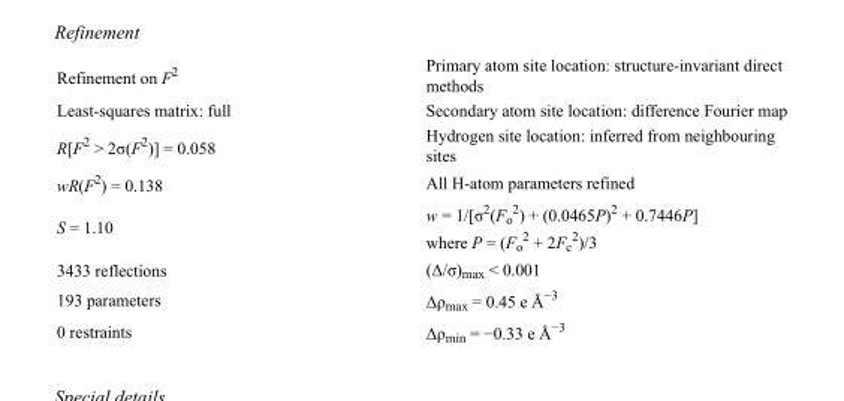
<table><tbody><tr><td>Refinement on F<sup>2</sup></td><td>Primary atom site location: structure-invariant direct methods</td></tr><tr><td>Least-squares matrix: full</td><td>Secondary atom site location: difference Fourier map</td></tr><tr><td>R[F<sup>2</sup> &gt; 2σ(F<sup>2</sup>)] = 0.058</td><td>Hydrogen site location: inferred from neighbouring sites</td></tr><tr><td>wR(F<sup>2</sup>) = 0.138</td><td>All H-atom parameters refined</td></tr><tr><td>S = 1.10</td><td>w = 1/[σ<sup>2</sup>(F<sub>o</sub> <sup>2</sup>) + (0.0465P)<sup>2</sup> + 0.7446P] where P = (F<sub>o</sub> <sup>2</sup> + 2F<sub>c</sub> <sup>2</sup>)/3</td></tr><tr><td>3433 reflections</td><td>(Δ/σ)<sub>max</sub> &lt; 0.001</td></tr><tr><td>193 parameters</td><td>Δρ<sub>max</sub> = 0.45 e Å<sup>−3</sup></td></tr><tr><td>0 restraints</td><td>Δρ<sub>min</sub> = −0.33 e Å<sup>−3</sup></td></tr></tbody></table>